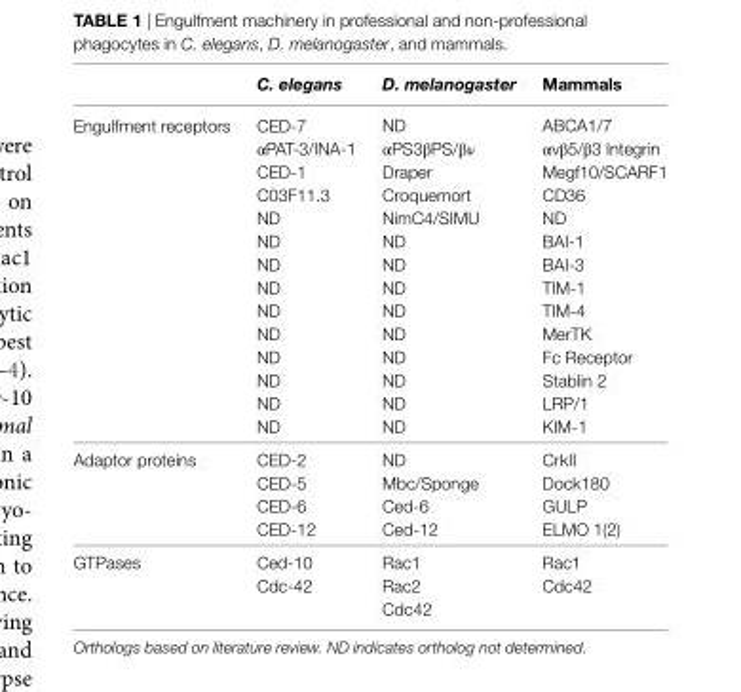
<table><thead><tr><td></td><td>C. elegans</td><td>D. melanogaster</td><td>Mammals</td></tr></thead><tbody><tr><td>Engulfment receptors</td><td>CED-7 αPAT-3/INA-1 CED-1 C03F11.3 ND ND ND ND ND ND ND ND ND ND</td><td>ND αPS3βPS/βν Draper Croquemort NimC4/SIMU ND ND ND ND ND ND ND ND ND</td><td>ABCA1/7 αvβ5/β3 Integrin Megf10/SCARF1 CD36 ND BAI-1 BAI-3 TIM-1 TIM-4 MerTK Fc Receptor Stablin 2 LRP/1 KIM-1</td></tr><tr><td>Adaptor proteins</td><td>CED-2 CED-5 CED-6 CED-12</td><td>ND Mbc/Sponge Ced-6 Ced-12</td><td>CrkII Dock180 GULP ELMO 1(2)</td></tr><tr><td>GTPases</td><td>Ced-10 Cdc-42</td><td>Rac1 Rac2 Cdc42</td><td>Rac1 Cdc42</td></tr></tbody></table>